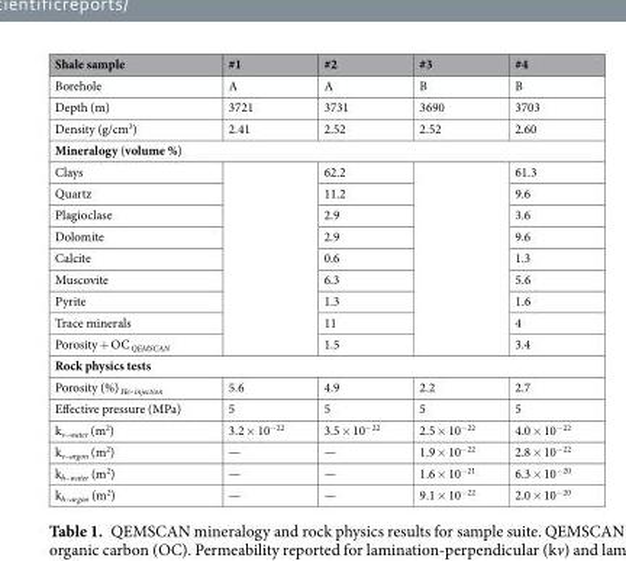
<table><thead><tr><td>Shale sample</td><td>#1</td><td>#2</td><td>#3</td><td>#4</td></tr></thead><tbody><tr><td>Borehole</td><td>A</td><td>A</td><td>B</td><td>B</td></tr><tr><td>Depth (m)</td><td>3721</td><td>3731</td><td>3690</td><td>3703</td></tr><tr><td>Density (g/cm<sup>3</sup>)</td><td>2.41</td><td>2.52</td><td>2.52</td><td>2.60</td></tr><tr><td colspan="5">Mineralogy (volume %)</td></tr><tr><td>Clays</td><td rowspan="9"></td><td>62.2</td><td rowspan="9"></td><td>61.3</td></tr><tr><td>Quartz</td><td>11.2</td><td>9.6</td></tr><tr><td>Plagioclase</td><td>2.9</td><td>3.6</td></tr><tr><td>Dolomite</td><td>2.9</td><td>9.6</td></tr><tr><td>Calcite</td><td>0.6</td><td>1.3</td></tr><tr><td>Muscovite</td><td>6.3</td><td>5.6</td></tr><tr><td>Pyrite</td><td>1.3</td><td>1.6</td></tr><tr><td>Trace minerals</td><td>11</td><td>4</td></tr><tr><td>Porosity + OC <sub>QEMSCAN</sub></td><td>1.5</td><td>3.4</td></tr><tr><td colspan="5">Rock physics tests</td></tr><tr><td>Porosity (%) <sub>He–injection</sub></td><td>5.6</td><td>4.9</td><td>2.2</td><td>2.7</td></tr><tr><td>Effective pressure (MPa)</td><td>5</td><td>5</td><td>5</td><td>5</td></tr><tr><td>k<sub>v–water</sub> (m<sup>2</sup>)</td><td>3.2 × 10<sup>−22</sup></td><td>3.5 × 10<sup>−22</sup></td><td>2.5 × 10<sup>−22</sup></td><td>4.0 × 10<sup>−22</sup></td></tr><tr><td>k<sub>v–argon</sub> (m<sup>2</sup>)</td><td>—</td><td>—</td><td>1.9 × 10<sup>−22</sup></td><td>2.8 × 10<sup>−22</sup></td></tr><tr><td>k<sub>h–water</sub> (m<sup>2</sup>)</td><td>—</td><td>—</td><td>1.6 × 10<sup>−21</sup></td><td>6.3 × 10<sup>−20</sup></td></tr><tr><td>k<sub>h–argon</sub> (m<sup>2</sup>)</td><td>—</td><td>—</td><td>9.1 × 10<sup>−22</sup></td><td>2.0 × 10<sup>−20</sup></td></tr></tbody></table>